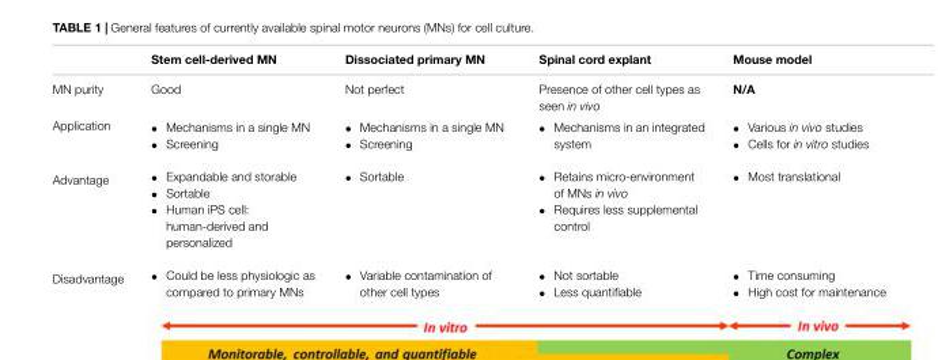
<table><thead><tr><td></td><td>Stem cell-derived MN</td><td>Dissociated primary MN</td><td>Spinal cord explant</td><td>Mouse model</td></tr></thead><tbody><tr><td>MN purity</td><td>Good</td><td>Not perfect</td><td>Presence of other cell types as seen in vivo</td><td>N/A</td></tr><tr><td>Application</td><td>• Mechanisms in a single MN • Screening</td><td>• Mechanisms in a single MN • Screening</td><td>• Mechanisms in an integrated system</td><td>• Various in vivo studies • Cells for in vitro studies</td></tr><tr><td>Advantage</td><td>• Expandable and storable • Sortable • Human iPS cell: human-derived and personalized</td><td>• Sortable</td><td>• Retains micro-environment of MNs in vivo • Requires less supplemental control</td><td>• Most translational</td></tr><tr><td>Disadvantage</td><td>• Could be less physiologic as compared to primary MNs</td><td>• Variable contamination of other cell types</td><td>• Not sortable • Less quantifiable</td><td>• Time consuming • High cost for maintenance</td></tr></tbody></table>